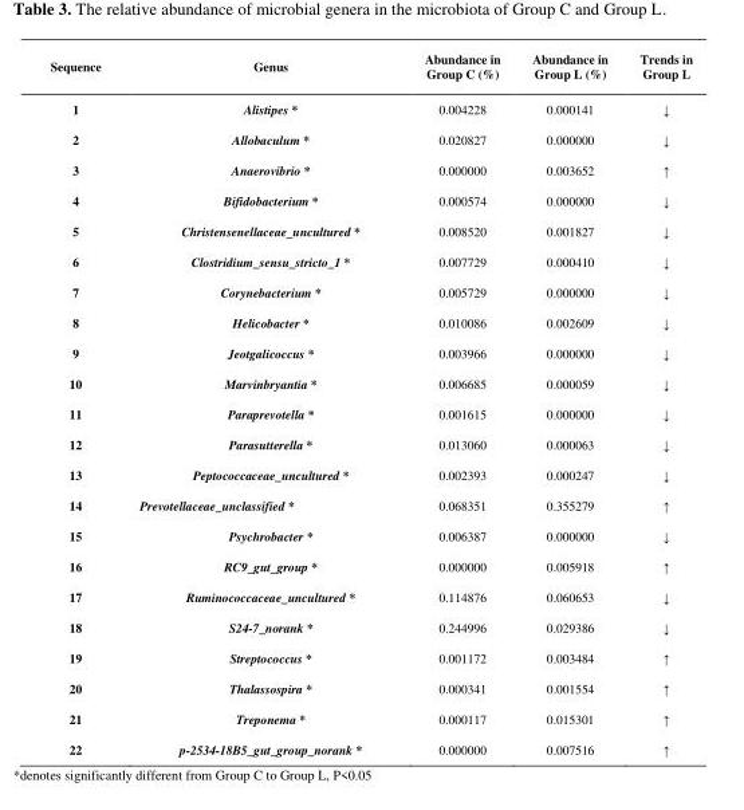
<table><thead><tr><td>Sequence</td><td>Genus</td><td>Abundance in Group C (%)</td><td>Abundance in Group L (%)</td><td>Trends in Group L</td></tr></thead><tbody><tr><td>1</td><td>Alistipes *</td><td>0.004228</td><td>0.000141</td><td>↓</td></tr><tr><td>2</td><td>Allobaculum *</td><td>0.020827</td><td>0.000000</td><td>↓</td></tr><tr><td>3</td><td>Anaerovibrio *</td><td>0.000000</td><td>0.003652</td><td>↑</td></tr><tr><td>4</td><td>Bifidobacterium *</td><td>0.000574</td><td>0.000000</td><td>↓</td></tr><tr><td>5</td><td>Christensenellaceae_uncultured *</td><td>0.008520</td><td>0.001827</td><td>↓</td></tr><tr><td>6</td><td>Clostridium_sensu_stricto_1 *</td><td>0.007729</td><td>0.000410</td><td>↓</td></tr><tr><td>7</td><td>Corynebacterium *</td><td>0.005729</td><td>0.000000</td><td>↓</td></tr><tr><td>8</td><td>Helicobacter *</td><td>0.010086</td><td>0.002609</td><td>↓</td></tr><tr><td>9</td><td>Jeotgalicoccus *</td><td>0.003966</td><td>0.000000</td><td>↓</td></tr><tr><td>10</td><td>Marvinbryantia *</td><td>0.006685</td><td>0.000059</td><td>↓</td></tr><tr><td>11</td><td>Paraprevotella *</td><td>0.001615</td><td>0.000000</td><td>↓</td></tr><tr><td>12</td><td>Parasutterella *</td><td>0.013060</td><td>0.000063</td><td>↓</td></tr><tr><td>13</td><td>Peptococcaceae_uncultured *</td><td>0.002393</td><td>0.000247</td><td>↓</td></tr><tr><td>14</td><td>Prevotellaceae_unclassified *</td><td>0.068351</td><td>0.355279</td><td>↑</td></tr><tr><td>15</td><td>Psychrobacter *</td><td>0.006387</td><td>0.000000</td><td>↓</td></tr><tr><td>16</td><td>RC9_gut_group *</td><td>0.000000</td><td>0.005918</td><td>↑</td></tr><tr><td>17</td><td>Ruminococcaceae_uncultured *</td><td>0.114876</td><td>0.060653</td><td>↓</td></tr><tr><td>18</td><td>S24-7_norank *</td><td>0.244996</td><td>0.029386</td><td>↓</td></tr><tr><td>19</td><td>Streptococcus *</td><td>0.001172</td><td>0.003484</td><td>↑</td></tr><tr><td>20</td><td>Thalassospira *</td><td>0.000341</td><td>0.001554</td><td>↑</td></tr><tr><td>21</td><td>Treponema *</td><td>0.000117</td><td>0.015301</td><td>↑</td></tr><tr><td>22</td><td>p-2534-18B5_gut_group_norank *</td><td>0.000000</td><td>0.007516</td><td>↑</td></tr></tbody></table>